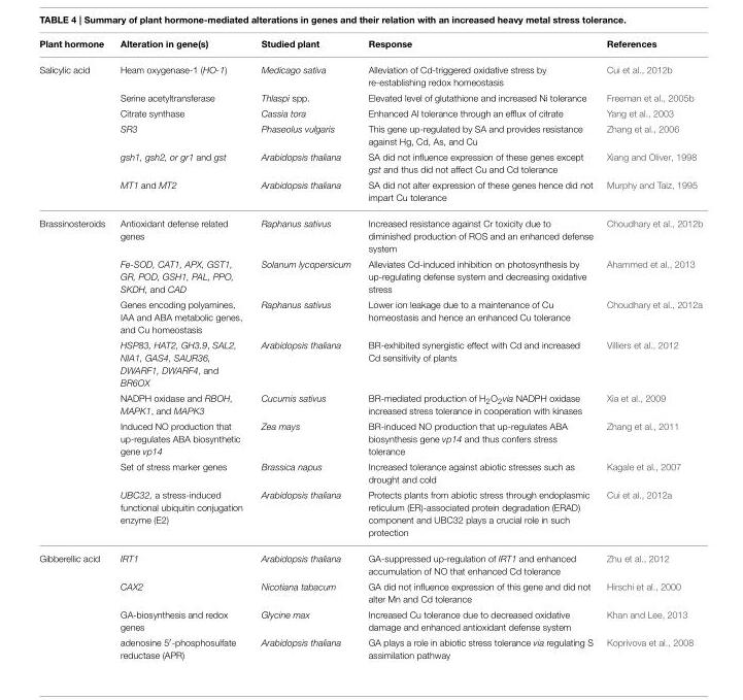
<table><thead><tr><td>Plant hormone</td><td>Alteration in gene(s)</td><td>Studied plant</td><td>Response</td><td>References</td></tr></thead><tbody><tr><td rowspan="6">Salicylic acid</td><td>Heam oxygenase-1 (HO-1)</td><td>Medicago sativa</td><td>Alleviation of Cd-triggered oxidative stress by re-establishing redox homeostasis</td><td>Cui et al., 2012b</td></tr><tr><td>Serine acetyltransferase</td><td>Thlaspi spp.</td><td>Elevated level of glutathione and increased Ni tolerance</td><td>Freeman et al., 2005b</td></tr><tr><td>Citrate synthase</td><td>Cassia tora</td><td>Enhanced Al tolerance through an efflux of citrate</td><td>Yang et al., 2003</td></tr><tr><td>SR3</td><td>Phaseolus vulgaris</td><td>This gene up-regulated by SA and provides resistance against Hg, Cd, As, and Cu</td><td>Zhang et al., 2006</td></tr><tr><td>gsh1, gsh2, or gr1 and gst</td><td>Arabidopsis thaliana</td><td>SA did not influence expression of these genes except gst and thus did not affect Cu and Cd tolerance</td><td>Xiang and Oliver, 1998</td></tr><tr><td>MT1 and MT2</td><td>Arabidopsis thaliana</td><td>SA did not alter expression of these genes hence did not impart Cu tolerance</td><td>Murphy and Taiz, 1995</td></tr><tr><td rowspan="8">Brassinosteroids</td><td>Antioxidant defense related genes</td><td>Raphanus sativus</td><td>Increased resistance against Cr toxicity due to diminished production of ROS and an enhanced defense system</td><td>Choudhary et al., 2012b</td></tr><tr><td>Fe-SOD, CAT1, APX, GST1, GR, POD, GSH1, PAL, PPO, SKDH, and CAD</td><td>Solanum lycopersicum</td><td>Alleviates Cd-induced inhibition on photosynthesis by up-regulating defense system and decreasing oxidative stress</td><td>Ahammed et al., 2013</td></tr><tr><td>Genes encoding polyamines, IAA and ABA metabolic genes, and Cu homeostasis</td><td>Raphanus sativus</td><td>Lower ion leakage due to a maintenance of Cu homeostasis and hence an enhanced Cu tolerance</td><td>Choudhary et al., 2012a</td></tr><tr><td>HSP83, HAT2, GH3.9, SAL2, NIA1, GAS4, SAUR36, DWARF1, DWARF4, and BR6OX</td><td>Arabidopsis thaliana</td><td>BR-exhibited synergistic effect with Cd and increased Cd sensitivity of plants</td><td>Villiers et al., 2012</td></tr><tr><td>NADPH oxidase and RBOH, MAPK1, and MAPK3</td><td>Cucumis sativus</td><td>BR-mediated production of H<sub>2</sub>O<sub>2</sub>via NADPH oxidase increased stress tolerance in cooperation with kinases</td><td>Xia et al., 2009</td></tr><tr><td>Induced NO production that up-regulates ABA biosynthetic gene vp14</td><td>Zea mays</td><td>BR-induced NO production that up-regulates ABA biosynthesis gene vp14 and thus confers stress tolerance</td><td>Zhang et al., 2011</td></tr><tr><td>Set of stress marker genes</td><td>Brassica napus</td><td>Increased tolerance against abiotic stresses such as drought and cold</td><td>Kagale et al., 2007</td></tr><tr><td>UBC32, a stress-induced functional ubiquitin conjugation enzyme (E2)</td><td>Arabidopsis thaliana</td><td>Protects plants from abiotic stress through endoplasmic reticulum (ER)-associated protein degradation (ERAD) component and UBC32 plays a crucial role in such protection</td><td>Cui et al., 2012a</td></tr><tr><td rowspan="4">Gibberellic acid</td><td>IRT1</td><td>Arabidopsis thaliana</td><td>GA-suppressed up-regulation of IRT1 and enhanced accumulation of NO that enhanced Cd tolerance</td><td>Zhu et al., 2012</td></tr><tr><td>CAX2</td><td>Nicotiana tabacum</td><td>GA did not influence expression of this gene and did not alter Mn and Cd tolerance</td><td>Hirschi et al., 2000</td></tr><tr><td>GA-biosynthesis and redox genes</td><td>Glycine max</td><td>Increased Cu tolerance due to decreased oxidative damage and enhanced antioxidant defense system</td><td>Khan and Lee, 2013</td></tr><tr><td>adenosine 5′-phosphosulfate reductase (APR)</td><td>Arabidopsis thaliana</td><td>GA plays a role in abiotic stress tolerance via regulating S assimilation pathway</td><td>Koprivova et al., 2008</td></tr></tbody></table>